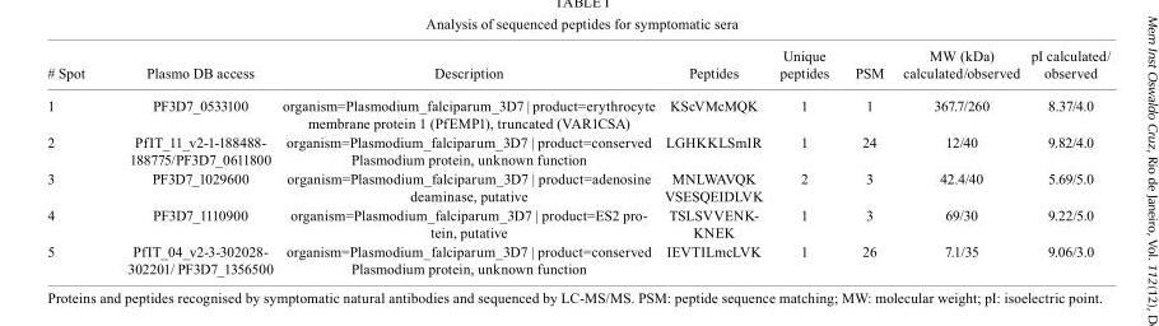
<table><thead><tr><td># Spot</td><td>Plasmo DB access</td><td>Description</td><td>Peptides</td><td>Unique peptides</td><td>PSM</td><td>MW (kDa) calculated/observed</td><td>pI calculated/ observed</td></tr></thead><tbody><tr><td>1</td><td>PF3D7_0533100</td><td>organism=Plasmodium_falciparum_3D7 | product=erythrocyte membrane protein 1 (PfEMP1), truncated (VAR1CSA)</td><td>KScVMcMQK</td><td>1</td><td>1</td><td>367.7/260</td><td>8.37/4.0</td></tr><tr><td>2</td><td>PfIT_11_v2-1-188488- 188775/PF3D7_0611800</td><td>organism=Plasmodium_falciparum_3D7 | product=conserved Plasmodium protein, unknown function</td><td>LGHKKLSmIR</td><td>1</td><td>24</td><td>12/40</td><td>9.82/4.0</td></tr><tr><td>3</td><td>PF3D7_1029600</td><td>organism=Plasmodium_falciparum_3D7 | product=adenosine deaminase, putative</td><td>MNLWAVQK VSESQEIDLVK</td><td>2</td><td>3</td><td>42.4/40</td><td>5.69/5.0</td></tr><tr><td>4</td><td>PF3D7_1110900</td><td>organism=Plasmodium_falciparum_3D7 | product=ES2 pro- tein, putative</td><td>TSLSVVENK- KNEK</td><td>1</td><td>3</td><td>69/30</td><td>9.22/5.0</td></tr><tr><td>5</td><td>PfIT_04_v2-3-302028- 302201/ PF3D7_1356500</td><td>organism=Plasmodium_falciparum_3D7 | product=conserved Plasmodium protein, unknown function</td><td>IEVTILmcLVK</td><td>1</td><td>26</td><td>7.1/35</td><td>9.06/3.0</td></tr></tbody></table>